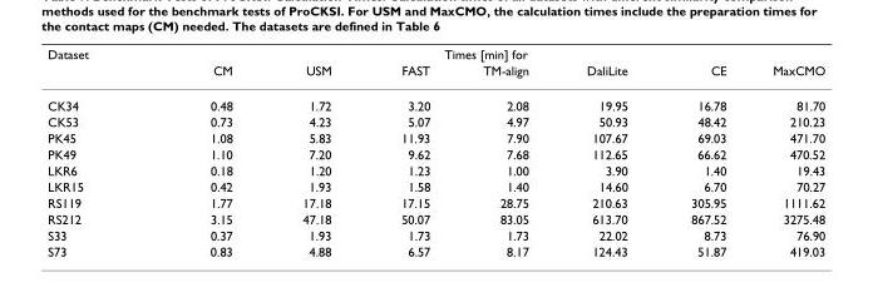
<table><thead><tr><td rowspan="2">Dataset</td><td colspan="7">Times [min] for</td></tr><tr><td>CM</td><td>USM</td><td>FAST</td><td>TM-align</td><td>DaliLite</td><td>CE</td><td>MaxCMO</td></tr></thead><tbody><tr><td>CK34</td><td>0.48</td><td>1.72</td><td>3.20</td><td>2.08</td><td>19.95</td><td>16.78</td><td>81.70</td></tr><tr><td>CK53</td><td>0.73</td><td>4.23</td><td>5.07</td><td>4.97</td><td>50.93</td><td>48.42</td><td>210.23</td></tr><tr><td>PK45</td><td>1.08</td><td>5.83</td><td>11.93</td><td>7.90</td><td>107.67</td><td>69.03</td><td>471.70</td></tr><tr><td>PK49</td><td>1.10</td><td>7.20</td><td>9.62</td><td>7.68</td><td>112.65</td><td>66.62</td><td>470.52</td></tr><tr><td>LKR6</td><td>0.18</td><td>1.20</td><td>1.23</td><td>1.00</td><td>3.90</td><td>1.40</td><td>19.43</td></tr><tr><td>LKR15</td><td>0.42</td><td>1.93</td><td>1.58</td><td>1.40</td><td>14.60</td><td>6.70</td><td>70.27</td></tr><tr><td>RS119</td><td>1.77</td><td>17.18</td><td>17.15</td><td>28.75</td><td>210.63</td><td>305.95</td><td>1111.62</td></tr><tr><td>RS212</td><td>3.15</td><td>47.18</td><td>50.07</td><td>83.05</td><td>613.70</td><td>867.52</td><td>3275.48</td></tr><tr><td>S33</td><td>0.37</td><td>1.93</td><td>1.73</td><td>1.73</td><td>22.02</td><td>8.73</td><td>76.90</td></tr><tr><td>S73</td><td>0.83</td><td>4.88</td><td>6.57</td><td>8.17</td><td>124.43</td><td>51.87</td><td>419.03</td></tr></tbody></table>